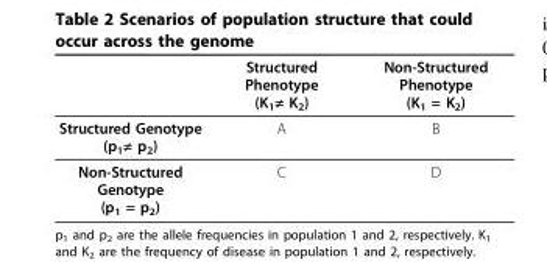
<table><thead><tr><td></td><td>Structured Phenotype (K<sub>1</sub>≠ K<sub>2</sub>)</td><td>Non-Structured Phenotype (K<sub>1</sub> = K<sub>2</sub>)</td></tr></thead><tbody><tr><td>Structured Genotype (p<sub>1</sub>≠ p<sub>2</sub>)</td><td>A</td><td>B</td></tr><tr><td>Non-Structured Genotype (p<sub>1</sub> = p<sub>2</sub>)</td><td>C</td><td>D</td></tr></tbody></table>